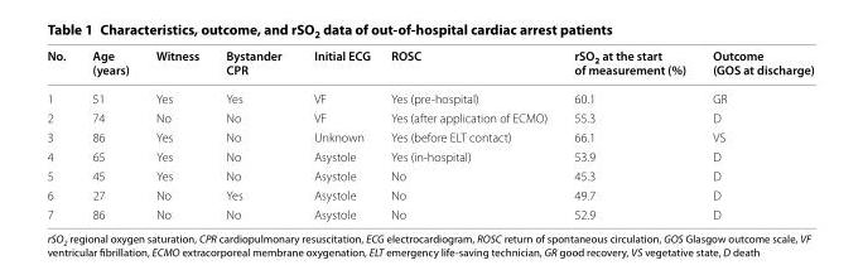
<table><thead><tr><td>No.</td><td>Age (years)</td><td>Witness</td><td>Bystander CPR</td><td>Initial ECG</td><td>ROSC</td><td>rSO<sub>2</sub> at the start of measurement (%)</td><td>Outcome (GOS at discharge)</td></tr></thead><tbody><tr><td>1</td><td>51</td><td>Yes</td><td>Yes</td><td>VF</td><td>Yes (pre-hospital)</td><td>60.1</td><td>GR</td></tr><tr><td>2</td><td>74</td><td>No</td><td>No</td><td>VF</td><td>Yes (after application of ECMO)</td><td>55.3</td><td>D</td></tr><tr><td>3</td><td>86</td><td>Yes</td><td>No</td><td>Unknown</td><td>Yes (before ELT contact)</td><td>66.1</td><td>VS</td></tr><tr><td>4</td><td>65</td><td>Yes</td><td>No</td><td>Asystole</td><td>Yes (in-hospital)</td><td>53.9</td><td>D</td></tr><tr><td>5</td><td>45</td><td>Yes</td><td>No</td><td>Asystole</td><td>No</td><td>45.3</td><td>D</td></tr><tr><td>6</td><td>27</td><td>No</td><td>Yes</td><td>Asystole</td><td>No</td><td>49.7</td><td>D</td></tr><tr><td>7</td><td>86</td><td>No</td><td>No</td><td>Asystole</td><td>No</td><td>52.9</td><td>D</td></tr></tbody></table>